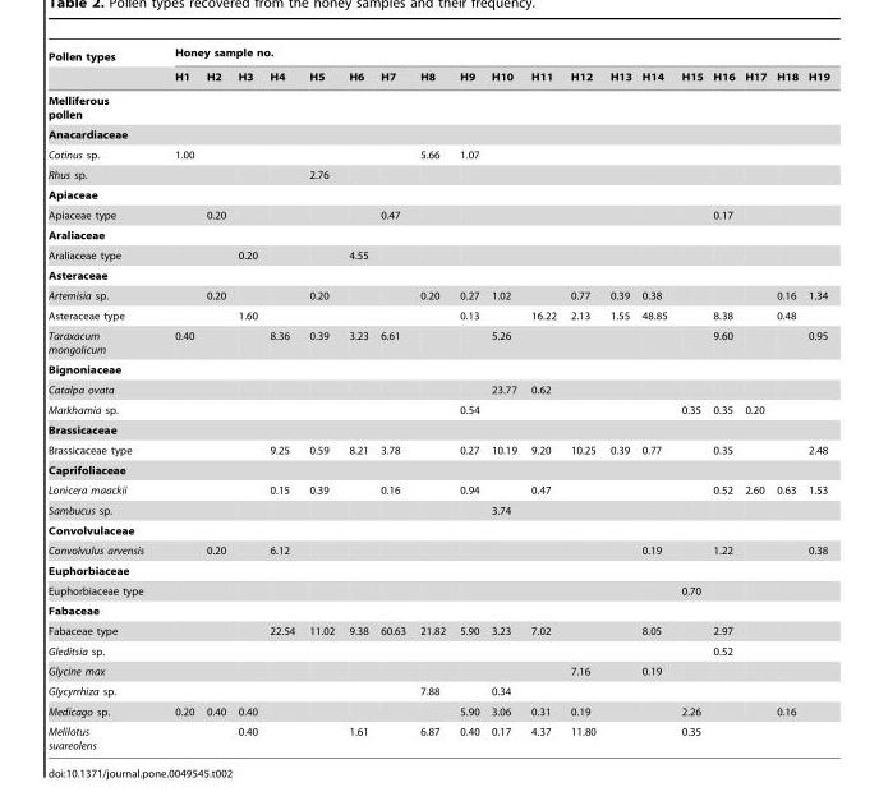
<table><thead><tr><td rowspan="2">Pollen types</td><td colspan="19">Honey sample no.</td></tr><tr><td>H1</td><td>H2</td><td>H3</td><td>H4</td><td>H5</td><td>H6</td><td>H7</td><td>H8</td><td>H9</td><td>H10</td><td>H11</td><td>H12</td><td>H13</td><td>H14</td><td>H15</td><td>H16</td><td>H17</td><td>H18</td><td>H19</td></tr></thead><tbody><tr><td colspan="20">Melliferous pollen</td></tr><tr><td colspan="20">Anacardiaceae</td></tr><tr><td>Cotinus sp.</td><td>1.00</td><td></td><td></td><td></td><td></td><td></td><td></td><td>5.66</td><td>1.07</td><td></td><td></td><td></td><td></td><td></td><td></td><td></td><td></td><td></td><td></td></tr><tr><td>Rhus sp.</td><td></td><td></td><td></td><td></td><td>2.76</td><td></td><td></td><td></td><td></td><td></td><td></td><td></td><td></td><td></td><td></td><td></td><td></td><td></td><td></td></tr><tr><td colspan="20">Apiaceae</td></tr><tr><td>Apiaceae type</td><td></td><td>0.20</td><td></td><td></td><td></td><td></td><td>0.47</td><td></td><td></td><td></td><td></td><td></td><td></td><td></td><td></td><td>0.17</td><td></td><td></td><td></td></tr><tr><td colspan="20">Araliaceae</td></tr><tr><td>Araliaceae type</td><td></td><td></td><td>0.20</td><td></td><td></td><td>4.55</td><td></td><td></td><td></td><td></td><td></td><td></td><td></td><td></td><td></td><td></td><td></td><td></td><td></td></tr><tr><td colspan="20">Asteraceae</td></tr><tr><td>Artemisia sp.</td><td></td><td>0.20</td><td></td><td></td><td>0.20</td><td></td><td></td><td>0.20</td><td>0.27</td><td>1.02</td><td></td><td>0.77</td><td>0.39</td><td>0.38</td><td></td><td></td><td></td><td>0.16</td><td>1.34</td></tr><tr><td>Asteraceae type</td><td></td><td></td><td>1.60</td><td></td><td></td><td></td><td></td><td></td><td>0.13</td><td></td><td>16.22</td><td>2.13</td><td>1.55</td><td>48.85</td><td></td><td>8.38</td><td></td><td>0.48</td><td></td></tr><tr><td>Taraxacum mongolicum</td><td>0.40</td><td></td><td></td><td>8.36</td><td>0.39</td><td>3.23</td><td>6.61</td><td></td><td></td><td>5.26</td><td></td><td></td><td></td><td></td><td></td><td>9.60</td><td></td><td></td><td>0.95</td></tr><tr><td colspan="20">Bignoniaceae</td></tr><tr><td>Catalpa ovata</td><td></td><td></td><td></td><td></td><td></td><td></td><td></td><td></td><td></td><td>23.77</td><td>0.62</td><td></td><td></td><td></td><td></td><td></td><td></td><td></td><td></td></tr><tr><td>Markhamia sp.</td><td></td><td></td><td></td><td></td><td></td><td></td><td></td><td></td><td>0.54</td><td></td><td></td><td></td><td></td><td></td><td>0.35</td><td>0.35</td><td>0.20</td><td></td><td></td></tr><tr><td colspan="20">Brassicaceae</td></tr><tr><td>Brassicaceae type</td><td></td><td></td><td></td><td>9.25</td><td>0.59</td><td>8.21</td><td>3.78</td><td></td><td>0.27</td><td>10.19</td><td>9.20</td><td>10.25</td><td>0.39</td><td>0.77</td><td></td><td>0.35</td><td></td><td></td><td>2.48</td></tr><tr><td colspan="20">Caprifoliaceae</td></tr><tr><td>Lonicera maackii</td><td></td><td></td><td></td><td>0.15</td><td>0.39</td><td></td><td>0.16</td><td></td><td>0.94</td><td></td><td>0.47</td><td></td><td></td><td></td><td></td><td>0.52</td><td>2.60</td><td>0.63</td><td>1.53</td></tr><tr><td>Sambucus sp.</td><td></td><td></td><td></td><td></td><td></td><td></td><td></td><td></td><td></td><td>3.74</td><td></td><td></td><td></td><td></td><td></td><td></td><td></td><td></td><td></td></tr><tr><td colspan="20">Convolvulaceae</td></tr><tr><td>Convolvulus arvensis</td><td></td><td>0.20</td><td></td><td>6.12</td><td></td><td></td><td></td><td></td><td></td><td></td><td></td><td></td><td></td><td>0.19</td><td></td><td>1.22</td><td></td><td></td><td>0.38</td></tr><tr><td colspan="20">Euphorbiaceae</td></tr><tr><td>Euphorbiaceae type</td><td></td><td></td><td></td><td></td><td></td><td></td><td></td><td></td><td></td><td></td><td></td><td></td><td></td><td></td><td>0.70</td><td></td><td></td><td></td><td></td></tr><tr><td colspan="20">Fabaceae</td></tr><tr><td>Fabaceae type</td><td></td><td></td><td></td><td>22.54</td><td>11.02</td><td>9.38</td><td>60.63</td><td>21.82</td><td>5.90</td><td>3.23</td><td>7.02</td><td></td><td></td><td>8.05</td><td></td><td>2.97</td><td></td><td></td><td></td></tr><tr><td>Gleditsia sp.</td><td></td><td></td><td></td><td></td><td></td><td></td><td></td><td></td><td></td><td></td><td></td><td></td><td></td><td></td><td></td><td>0.52</td><td></td><td></td><td></td></tr><tr><td>Glycine max</td><td></td><td></td><td></td><td></td><td></td><td></td><td></td><td></td><td></td><td></td><td></td><td>7.16</td><td></td><td>0.19</td><td></td><td></td><td></td><td></td><td></td></tr><tr><td>Glycyrrhiza sp.</td><td></td><td></td><td></td><td></td><td></td><td></td><td></td><td>7.88</td><td></td><td>0.34</td><td></td><td></td><td></td><td></td><td></td><td></td><td></td><td></td><td></td></tr><tr><td>Medicago sp.</td><td>0.20</td><td>0.40</td><td>0.40</td><td></td><td></td><td></td><td></td><td></td><td>5.90</td><td>3.06</td><td>0.31</td><td>0.19</td><td></td><td></td><td>2.26</td><td></td><td></td><td>0.16</td><td></td></tr><tr><td>Melilotus suareolens</td><td></td><td></td><td>0.40</td><td></td><td></td><td>1.61</td><td></td><td>6.87</td><td>0.40</td><td>0.17</td><td>4.37</td><td>11.80</td><td></td><td></td><td>0.35</td><td></td><td></td><td></td><td></td></tr></tbody></table>